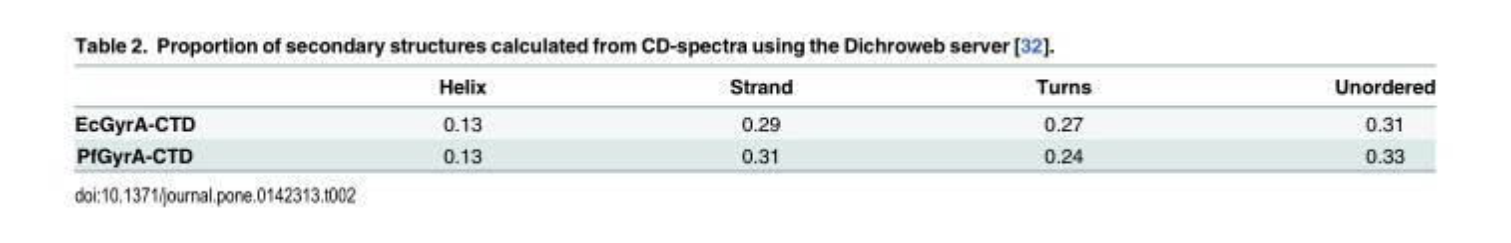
<table><thead><tr><td></td><td>Helix</td><td>Strand</td><td>Turns</td><td>Unordered</td></tr></thead><tbody><tr><td>EcGyrA-CTD</td><td>0.13</td><td>0.29</td><td>0.27</td><td>0.31</td></tr><tr><td>PfGyrA-CTD</td><td>0.13</td><td>0.31</td><td>0.24</td><td>0.33</td></tr></tbody></table>